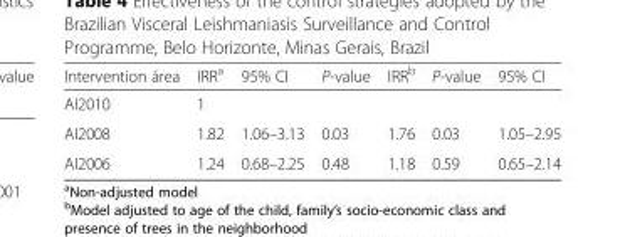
<table><thead><tr><td>Intervention área</td><td>IRR<sup>a</sup></td><td>95% CI</td><td>P-value</td><td>IRR<sup>b</sup></td><td>P-value</td><td>95% CI</td></tr></thead><tbody><tr><td>AI2010</td><td>1</td><td></td><td></td><td></td><td></td><td></td></tr><tr><td>AI2008</td><td>1.82</td><td>1.06–3.13</td><td>0.03</td><td>1.76</td><td>0.03</td><td>1.05–2.95</td></tr><tr><td>AI2006</td><td>1.24</td><td>0.68–2.25</td><td>0.48</td><td>1.18</td><td>0.59</td><td>0.65–2.14</td></tr></tbody></table>